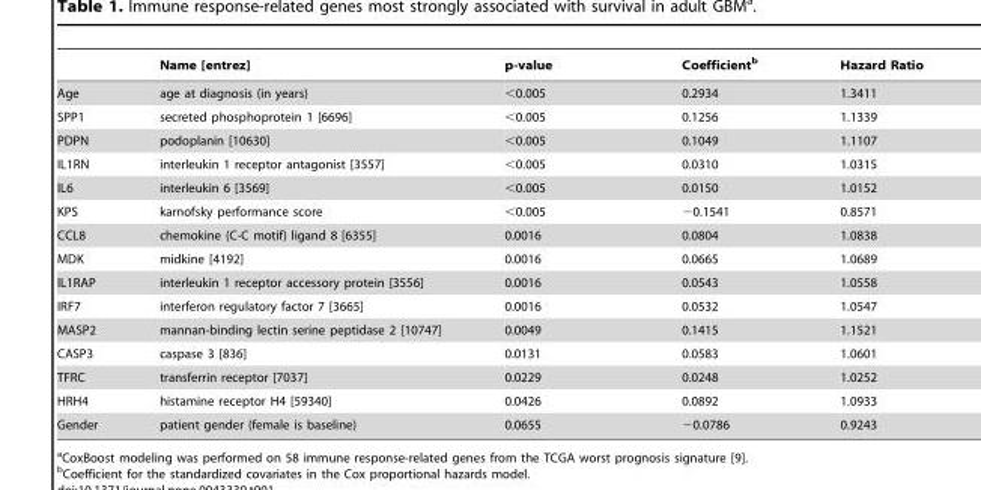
<table><thead><tr><td></td><td>Name [entrez]</td><td>p-value</td><td>Coefficient<sup>b</sup></td><td>Hazard Ratio</td></tr></thead><tbody><tr><td>Age</td><td>age at diagnosis (in years)</td><td>&lt;0.005</td><td>0.2934</td><td>1.3411</td></tr><tr><td>SPP1</td><td>secreted phosphoprotein 1 [6696]</td><td>&lt;0.005</td><td>0.1256</td><td>1.1339</td></tr><tr><td>PDPN</td><td>podoplanin [10630]</td><td>&lt;0.005</td><td>0.1049</td><td>1.1107</td></tr><tr><td>IL1RN</td><td>interleukin 1 receptor antagonist [3557]</td><td>&lt;0.005</td><td>0.0310</td><td>1.0315</td></tr><tr><td>IL6</td><td>interleukin 6 [3569]</td><td>&lt;0.005</td><td>0.0150</td><td>1.0152</td></tr><tr><td>KPS</td><td>karnofsky performance score</td><td>&lt;0.005</td><td>−0.1541</td><td>0.8571</td></tr><tr><td>CCL8</td><td>chemokine (C-C motif) ligand 8 [6355]</td><td>0.0016</td><td>0.0804</td><td>1.0838</td></tr><tr><td>MDK</td><td>midkine [4192]</td><td>0.0016</td><td>0.0665</td><td>1.0689</td></tr><tr><td>IL1RAP</td><td>interleukin 1 receptor accessory protein [3556]</td><td>0.0016</td><td>0.0543</td><td>1.0558</td></tr><tr><td>IRF7</td><td>interferon regulatory factor 7 [3665]</td><td>0.0016</td><td>0.0532</td><td>1.0547</td></tr><tr><td>MASP2</td><td>mannan-binding lectin serine peptidase 2 [10747]</td><td>0.0049</td><td>0.1415</td><td>1.1521</td></tr><tr><td>CASP3</td><td>caspase 3 [836]</td><td>0.0131</td><td>0.0583</td><td>1.0601</td></tr><tr><td>TFRC</td><td>transferrin receptor [7037]</td><td>0.0229</td><td>0.0248</td><td>1.0252</td></tr><tr><td>HRH4</td><td>histamine receptor H4 [59340]</td><td>0.0426</td><td>0.0892</td><td>1.0933</td></tr><tr><td>Gender</td><td>patient gender (female is baseline)</td><td>0.0655</td><td>−0.0786</td><td>0.9243</td></tr></tbody></table>